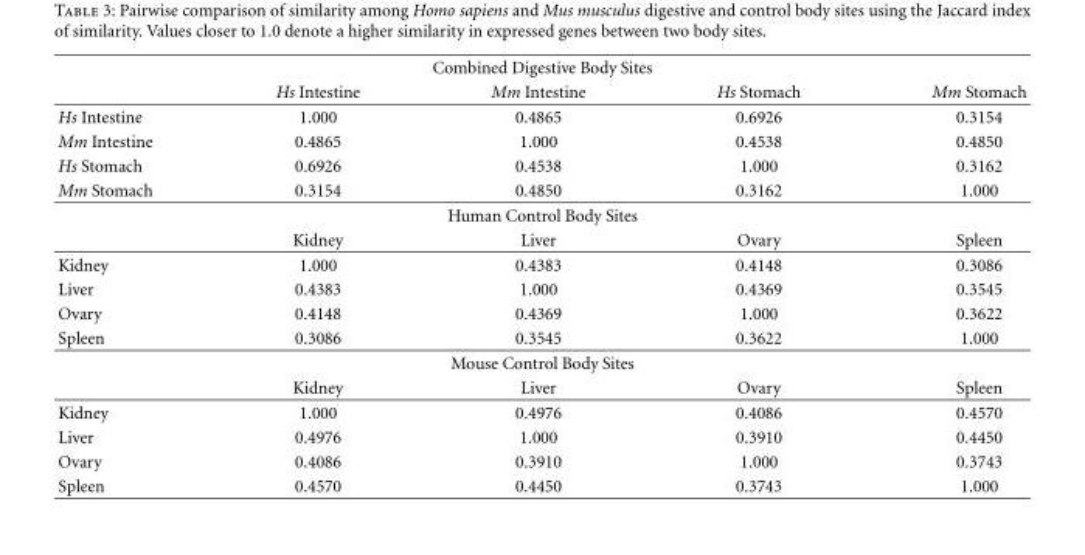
<table><thead><tr><td colspan="5">Combined Digestive Body Sites</td></tr><tr><td></td><td>Hs Intestine</td><td>Mm Intestine</td><td>Hs Stomach</td><td>Mm Stomach</td></tr></thead><tbody><tr><td>Hs Intestine</td><td>1.000</td><td>0.4865</td><td>0.6926</td><td>0.3154</td></tr><tr><td>Mm Intestine</td><td>0.4865</td><td>1.000</td><td>0.4538</td><td>0.4850</td></tr><tr><td>Hs Stomach</td><td>0.6926</td><td>0.4538</td><td>1.000</td><td>0.3162</td></tr><tr><td>Mm Stomach</td><td>0.3154</td><td>0.4850</td><td>0.3162</td><td>1.000</td></tr><tr><td colspan="5">Human Control Body Sites</td></tr><tr><td></td><td>Kidney</td><td>Liver</td><td>Ovary</td><td>Spleen</td></tr><tr><td>Kidney</td><td>1.000</td><td>0.4383</td><td>0.4148</td><td>0.3086</td></tr><tr><td>Liver</td><td>0.4383</td><td>1.000</td><td>0.4369</td><td>0.3545</td></tr><tr><td>Ovary</td><td>0.4148</td><td>0.4369</td><td>1.000</td><td>0.3622</td></tr><tr><td>Spleen</td><td>0.3086</td><td>0.3545</td><td>0.3622</td><td>1.000</td></tr><tr><td colspan="5">Mouse Control Body Sites</td></tr><tr><td></td><td>Kidney</td><td>Liver</td><td>Ovary</td><td>Spleen</td></tr><tr><td>Kidney</td><td>1.000</td><td>0.4976</td><td>0.4086</td><td>0.4570</td></tr><tr><td>Liver</td><td>0.4976</td><td>1.000</td><td>0.3910</td><td>0.4450</td></tr><tr><td>Ovary</td><td>0.4086</td><td>0.3910</td><td>1.000</td><td>0.3743</td></tr><tr><td>Spleen</td><td>0.4570</td><td>0.4450</td><td>0.3743</td><td>1.000</td></tr></tbody></table>